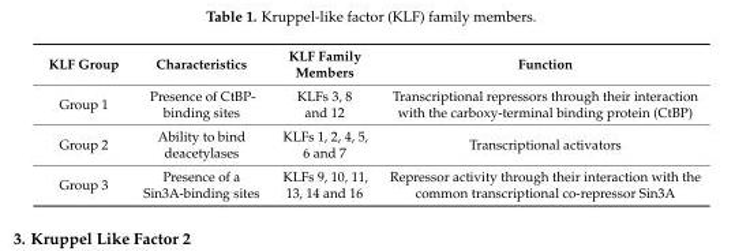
<table><thead><tr><td>KLF Group</td><td>Characteristics</td><td>KLF Family Members</td><td>Function</td></tr></thead><tbody><tr><td>Group 1</td><td>Presence of CtBP- binding sites</td><td>KLFs 3, 8 and 12</td><td>Transcriptional repressors through their interaction with the carboxy-terminal binding protein (CtBP)</td></tr><tr><td>Group 2</td><td>Ability to bind deacetylases</td><td>KLFs 1, 2, 4, 5, 6 and 7</td><td>Transcriptional activators</td></tr><tr><td>Group 3</td><td>Presence of a Sin3A-binding sites</td><td>KLFs 9, 10, 11, 13, 14 and 16</td><td>Repressor activity through their interaction with the common transcriptional co-repressor Sin3A</td></tr></tbody></table>